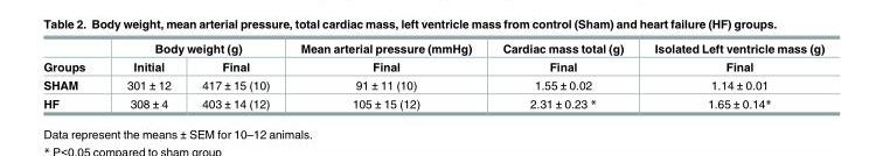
<table><thead><tr><td rowspan="2">Groups</td><td colspan="2">Body weight (g)</td><td rowspan="2">Mean arterial pressure (mmHg) Final</td><td rowspan="2">Cardiac mass total (g) Final</td><td rowspan="2">Isolated Left ventricle mass (g) Final</td></tr><tr><td>Initial</td><td>Final</td></tr></thead><tbody><tr><td>SHAM</td><td>301 ± 12</td><td>417 ± 15 (10)</td><td>91 ± 11 (10)</td><td>1.55 ± 0.02</td><td>1.14 ± 0.01</td></tr><tr><td>HF</td><td>308 ± 4</td><td>403 ± 14 (12)</td><td>105 ± 15 (12)</td><td>2.31 ± 0.23 *</td><td>1.65 ± 0.14*</td></tr></tbody></table>